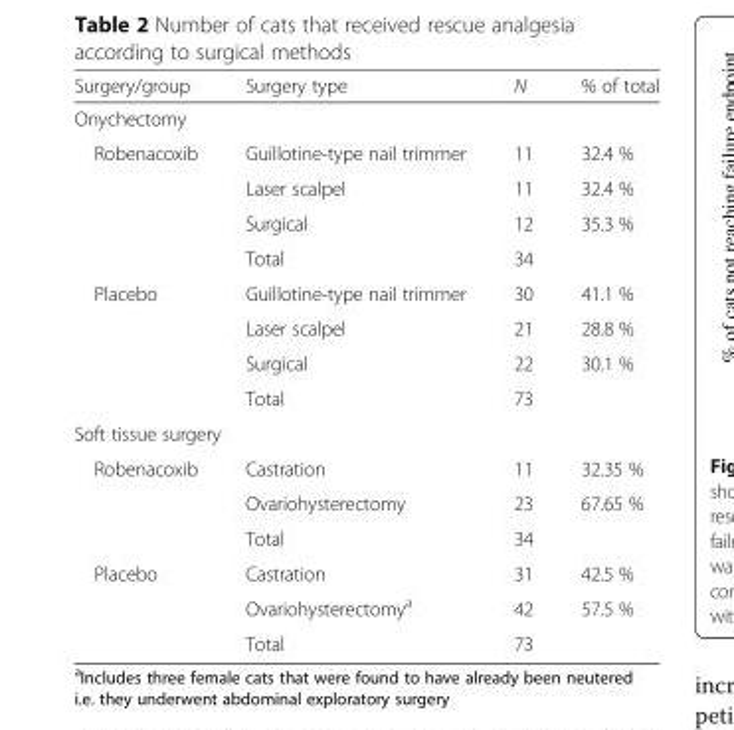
<table><thead><tr><td>Surgery/group</td><td>Surgery type</td><td>N</td><td>% of total</td></tr></thead><tbody><tr><td colspan="4">Onychectomy</td></tr><tr><td rowspan="4">Robenacoxib</td><td>Guillotine-type nail trimmer</td><td>11</td><td>32.4 %</td></tr><tr><td>Laser scalpel</td><td>11</td><td>32.4 %</td></tr><tr><td>Surgical</td><td>12</td><td>35.3 %</td></tr><tr><td>Total</td><td colspan="2">34</td></tr><tr><td rowspan="4">Placebo</td><td>Guillotine-type nail trimmer</td><td>30</td><td>41.1 %</td></tr><tr><td>Laser scalpel</td><td>21</td><td>28.8 %</td></tr><tr><td>Surgical</td><td>22</td><td>30.1 %</td></tr><tr><td>Total</td><td colspan="2">73</td></tr><tr><td colspan="4">Soft tissue surgery</td></tr><tr><td rowspan="3">Robenacoxib</td><td>Castration</td><td>11</td><td>32.35 %</td></tr><tr><td>Ovariohysterectomy</td><td>23</td><td>67.65 %</td></tr><tr><td>Total</td><td colspan="2">34</td></tr><tr><td rowspan="3">Placebo</td><td>Castration</td><td>31</td><td>42.5 %</td></tr><tr><td>Ovariohysterectomy<sup>a</sup></td><td>42</td><td>57.5 %</td></tr><tr><td>Total</td><td colspan="2">73</td></tr></tbody></table>